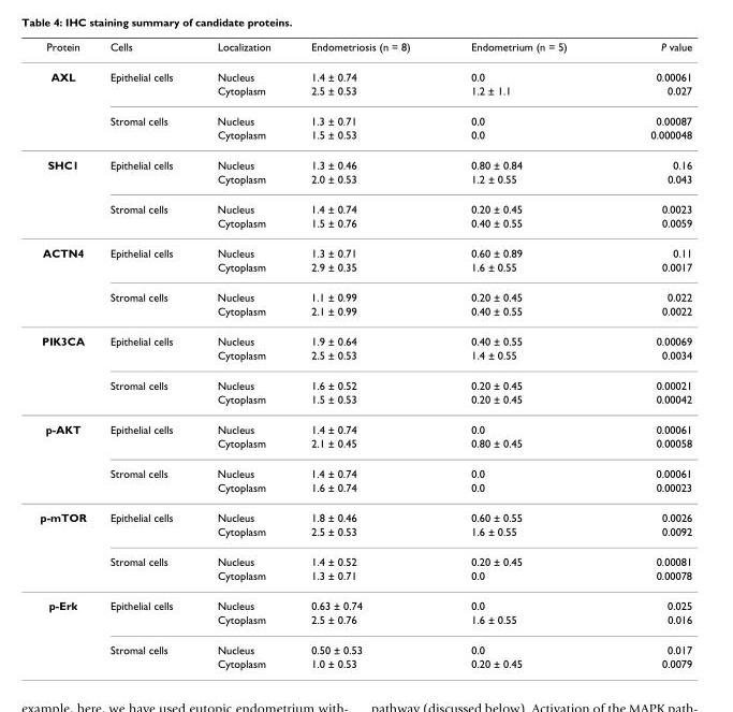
<table><thead><tr><td>Protein</td><td>Cells</td><td>Localization</td><td>Endometriosis (n = 8)</td><td>Endometrium (n = 5)</td><td>P value</td></tr></thead><tbody><tr><td rowspan="4">AXL</td><td>Epithelial cells</td><td>Nucleus</td><td>1.4 ± 0.74</td><td>0.0</td><td>0.00061</td></tr><tr><td></td><td>Cytoplasm</td><td>2.5 ± 0.53</td><td>1.2 ± 1.1</td><td>0.027</td></tr><tr><td>Stromal cells</td><td>Nucleus</td><td>1.3 ± 0.71</td><td>0.0</td><td>0.00087</td></tr><tr><td></td><td>Cytoplasm</td><td>1.5 ± 0.53</td><td>0.0</td><td>0.000048</td></tr><tr><td rowspan="4">SHC1</td><td>Epithelial cells</td><td>Nucleus</td><td>1.3 ± 0.46</td><td>0.80 ± 0.84</td><td>0.16</td></tr><tr><td></td><td>Cytoplasm</td><td>2.0 ± 0.53</td><td>1.2 ± 0.55</td><td>0.043</td></tr><tr><td>Stromal cells</td><td>Nucleus</td><td>1.4 ± 0.74</td><td>0.20 ± 0.45</td><td>0.0023</td></tr><tr><td></td><td>Cytoplasm</td><td>1.5 ± 0.76</td><td>0.40 ± 0.55</td><td>0.0059</td></tr><tr><td rowspan="4">ACTN4</td><td>Epithelial cells</td><td>Nucleus</td><td>1.3 ± 0.71</td><td>0.60 ± 0.89</td><td>0.11</td></tr><tr><td></td><td>Cytoplasm</td><td>2.9 ± 0.35</td><td>1.6 ± 0.55</td><td>0.0017</td></tr><tr><td>Stromal cells</td><td>Nucleus</td><td>1.1 ± 0.99</td><td>0.20 ± 0.45</td><td>0.022</td></tr><tr><td></td><td>Cytoplasm</td><td>2.1 ± 0.99</td><td>0.40 ± 0.55</td><td>0.0022</td></tr><tr><td rowspan="4">PIK3CA</td><td>Epithelial cells</td><td>Nucleus</td><td>1.9 ± 0.64</td><td>0.40 ± 0.55</td><td>0.00069</td></tr><tr><td></td><td>Cytoplasm</td><td>2.5 ± 0.53</td><td>1.4 ± 0.55</td><td>0.0034</td></tr><tr><td>Stromal cells</td><td>Nucleus</td><td>1.6 ± 0.52</td><td>0.20 ± 0.45</td><td>0.00021</td></tr><tr><td></td><td>Cytoplasm</td><td>1.5 ± 0.53</td><td>0.20 ± 0.45</td><td>0.00042</td></tr><tr><td rowspan="4">p-AKT</td><td>Epithelial cells</td><td>Nucleus</td><td>1.4 ± 0.74</td><td>0.0</td><td>0.00061</td></tr><tr><td></td><td>Cytoplasm</td><td>2.1 ± 0.45</td><td>0.80 ± 0.45</td><td>0.00058</td></tr><tr><td>Stromal cells</td><td>Nucleus</td><td>1.4 ± 0.74</td><td>0.0</td><td>0.00061</td></tr><tr><td></td><td>Cytoplasm</td><td>1.6 ± 0.74</td><td>0.0</td><td>0.00023</td></tr><tr><td rowspan="4">p-mTOR</td><td>Epithelial cells</td><td>Nucleus</td><td>1.8 ± 0.46</td><td>0.60 ± 0.55</td><td>0.0026</td></tr><tr><td></td><td>Cytoplasm</td><td>2.5 ± 0.53</td><td>1.6 ± 0.55</td><td>0.0092</td></tr><tr><td>Stromal cells</td><td>Nucleus</td><td>1.4 ± 0.52</td><td>0.20 ± 0.45</td><td>0.00081</td></tr><tr><td></td><td>Cytoplasm</td><td>1.3 ± 0.71</td><td>0.0</td><td>0.00078</td></tr><tr><td rowspan="4">p-Erk</td><td>Epithelial cells</td><td>Nucleus</td><td>0.63 ± 0.74</td><td>0.0</td><td>0.025</td></tr><tr><td></td><td>Cytoplasm</td><td>2.5 ± 0.76</td><td>1.6 ± 0.55</td><td>0.016</td></tr><tr><td>Stromal cells</td><td>Nucleus</td><td>0.50 ± 0.53</td><td>0.0</td><td>0.017</td></tr><tr><td></td><td>Cytoplasm</td><td>1.0 ± 0.53</td><td>0.20 ± 0.45</td><td>0.0079</td></tr></tbody></table>